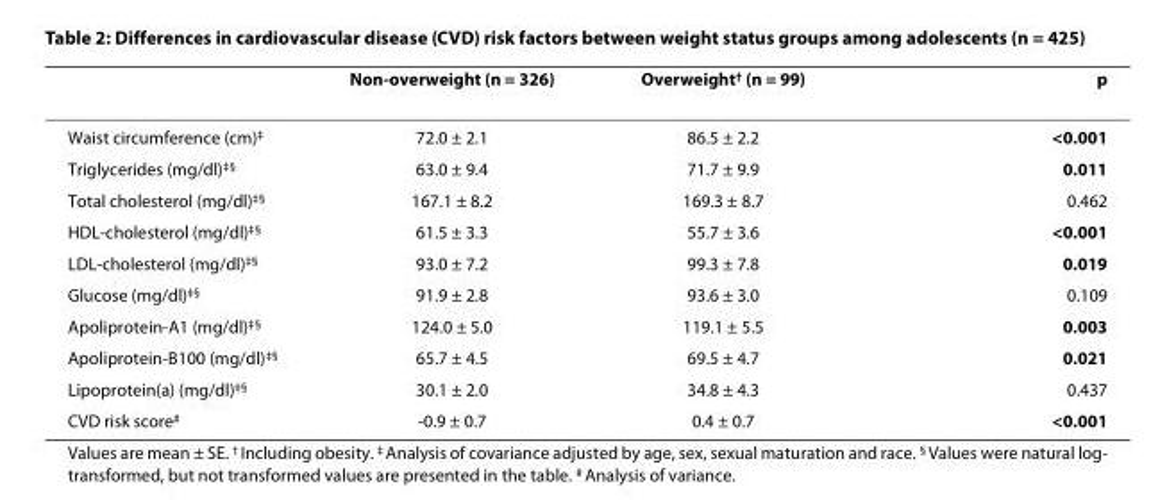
<table><thead><tr><td></td><td>Non-overweight (n = 326)</td><td>Overweight<sup>†</sup> (n = 99)</td><td>p</td></tr></thead><tbody><tr><td>Waist circumference (cm)<sup>‡</sup></td><td>72.0 ± 2.1</td><td>86.5 ± 2.2</td><td>&lt;0.001</td></tr><tr><td>Triglycerides (mg/dl)<sup>‡§</sup></td><td>63.0 ± 9.4</td><td>71.7 ± 9.9</td><td>0.011</td></tr><tr><td>Total cholesterol (mg/dl)<sup>‡§</sup></td><td>167.1 ± 8.2</td><td>169.3 ± 8.7</td><td>0.462</td></tr><tr><td>HDL-cholesterol (mg/dl)<sup>‡§</sup></td><td>61.5 ± 3.3</td><td>55.7 ± 3.6</td><td>&lt;0.001</td></tr><tr><td>LDL-cholesterol (mg/dl)<sup>‡§</sup></td><td>93.0 ± 7.2</td><td>99.3 ± 7.8</td><td>0.019</td></tr><tr><td>Glucose (mg/dl)<sup>‡§</sup></td><td>91.9 ± 2.8</td><td>93.6 ± 3.0</td><td>0.109</td></tr><tr><td>Apoliprotein-A1 (mg/dl)<sup>‡§</sup></td><td>124.0 ± 5.0</td><td>119.1 ± 5.5</td><td>0.003</td></tr><tr><td>Apoliprotein-B100 (mg/dl)<sup>‡§</sup></td><td>65.7 ± 4.5</td><td>69.5 ± 4.7</td><td>0.021</td></tr><tr><td>Lipoprotein(a) (mg/dl)<sup>‡§</sup></td><td>30.1 ± 2.0</td><td>34.8 ± 4.3</td><td>0.437</td></tr><tr><td>CVD risk score<sup>#</sup></td><td>-0.9 ± 0.7</td><td>0.4 ± 0.7</td><td>&lt;0.001</td></tr></tbody></table>